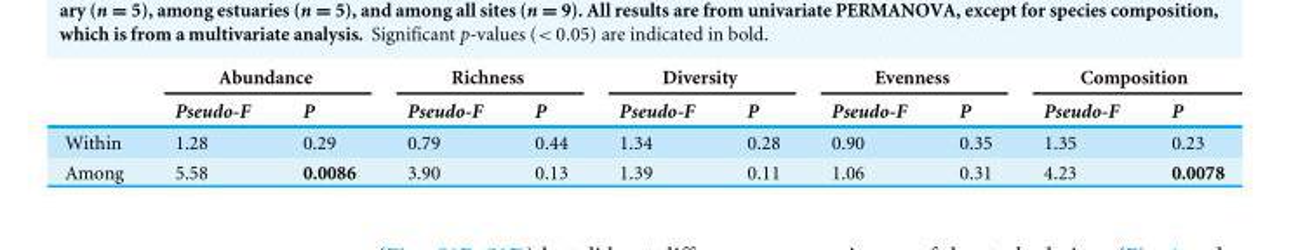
<table><thead><tr><td rowspan="2"></td><td colspan="2">Abundance</td><td colspan="2">Richness</td><td colspan="2">Diversity</td><td colspan="2">Evenness</td><td colspan="2">Composition</td></tr><tr><td>Pseudo-F</td><td>P</td><td>Pseudo-F</td><td>P</td><td>Pseudo-F</td><td>P</td><td>Pseudo-F</td><td>P</td><td>Pseudo-F</td><td>P</td></tr></thead><tbody><tr><td>Within</td><td>1.28</td><td>0.29</td><td>0.79</td><td>0.44</td><td>1.34</td><td>0.28</td><td>0.90</td><td>0.35</td><td>1.35</td><td>0.23</td></tr><tr><td>Among</td><td>5.58</td><td>0.0086</td><td>3.90</td><td>0.13</td><td>1.39</td><td>0.11</td><td>1.06</td><td>0.31</td><td>4.23</td><td>0.0078</td></tr></tbody></table>